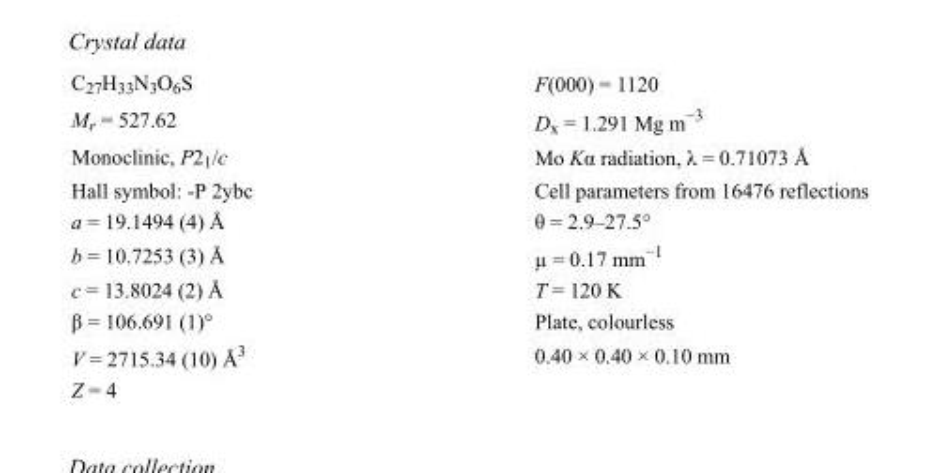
<table><tbody><tr><td>C<sub>27</sub>H<sub>33</sub>N<sub>3</sub>O<sub>6</sub>S</td><td>F(000) = 1120</td></tr><tr><td>M<sub>r</sub> = 527.62</td><td>D<sub>x</sub> = 1.291 Mg m<sup>−3</sup></td></tr><tr><td>Monoclinic, P2<sub>1</sub>/c</td><td>Mo Kα radiation, λ = 0.71073 Å</td></tr><tr><td>Hall symbol: -P 2ybc</td><td>Cell parameters from 16476 reflections</td></tr><tr><td>a = 19.1494 (4) Å</td><td>θ = 2.9–27.5°</td></tr><tr><td>b = 10.7253 (3) Å</td><td>µ = 0.17 mm<sup>−1</sup></td></tr><tr><td>c = 13.8024 (2) Å</td><td>T = 120 K</td></tr><tr><td>β = 106.691 (1)°</td><td>Plate, colourless</td></tr><tr><td>V = 2715.34 (10) Å<sup>3</sup></td><td>0.40 × 0.40 × 0.10 mm</td></tr><tr><td>Z = 4</td><td></td></tr></tbody></table>